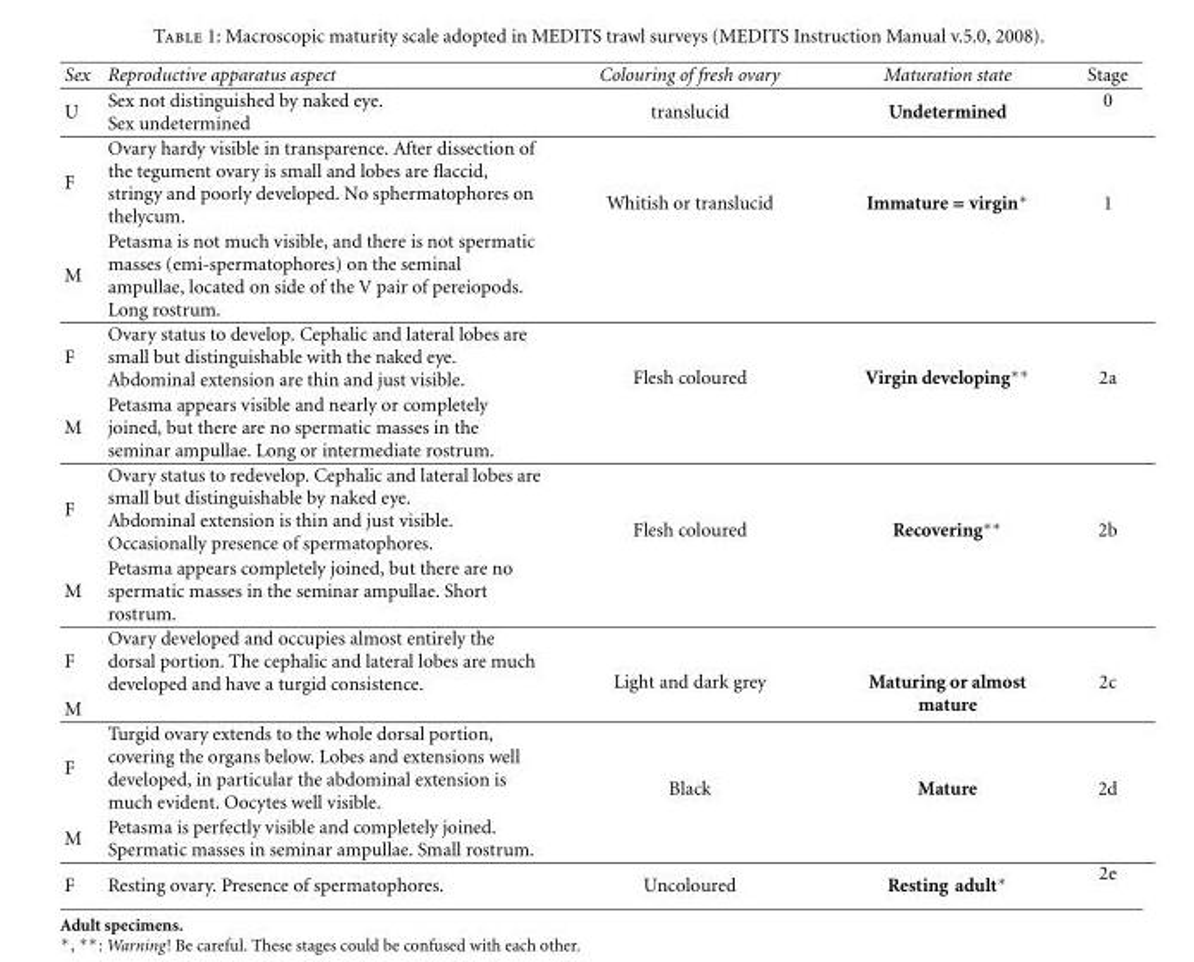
<table><thead><tr><td>Sex</td><td>Reproductive apparatus aspect</td><td>Colouring of fresh ovary</td><td>Maturation state</td><td>Stage</td></tr></thead><tbody><tr><td>U</td><td>Sex not distinguished by naked eye. Sex undetermined</td><td>translucid</td><td>Undetermined</td><td>0</td></tr><tr><td>F</td><td>Ovary hardy visible in transparence. After dissection of the tegument ovary is small and lobes are flaccid, stringy and poorly developed. No sphermatophores on thelycum.</td><td rowspan="2">Whitish or translucid</td><td rowspan="2">Immature = virgin∗</td><td rowspan="2">1</td></tr><tr><td>M</td><td>Petasma is not much visible, and there is not spermatic masses (emi-spermatophores) on the seminal ampullae, located on side of the V pair of pereiopods. Long rostrum.</td></tr><tr><td>F</td><td>Ovary status to develop. Cephalic and lateral lobes are small but distinguishable with the naked eye. Abdominal extension are thin and just visible.</td><td rowspan="2">Flesh coloured</td><td rowspan="2">Virgin developing∗∗</td><td rowspan="2">2a</td></tr><tr><td>M</td><td>Petasma appears visible and nearly or completely joined, but there are no spermatic masses in the seminar ampullae. Long or intermediate rostrum.</td></tr><tr><td>F</td><td>Ovary status to redevelop. Cephalic and lateral lobes are small but distinguishable by naked eye. Abdominal extension is thin and just visible. Occasionally presence of spermatophores.</td><td rowspan="2">Flesh coloured</td><td rowspan="2">Recovering∗∗</td><td rowspan="2">2b</td></tr><tr><td>M</td><td>Petasma appears completely joined, but there are no spermatic masses in the seminar ampullae. Short rostrum.</td></tr><tr><td>F</td><td>Ovary developed and occupies almost entirely the dorsal portion. The cephalic and lateral lobes are much developed and have a turgid consistence.</td><td rowspan="2">Light and dark grey</td><td rowspan="2">Maturing or almost mature</td><td rowspan="2">2c</td></tr><tr><td colspan="2">M</td></tr><tr><td>F</td><td>Turgid ovary extends to the whole dorsal portion, covering the organs below. Lobes and extensions well developed, in particular the abdominal extension is much evident. Oocytes well visible.</td><td rowspan="2">Black</td><td rowspan="2">Mature</td><td rowspan="2">2d</td></tr><tr><td>M</td><td>Petasma is perfectly visible and completely joined. Spermatic masses in seminar ampullae. Small rostrum.</td></tr><tr><td>F</td><td>Resting ovary. Presence of spermatophores.</td><td>Uncoloured</td><td>Resting adult∗</td><td>2e</td></tr></tbody></table>